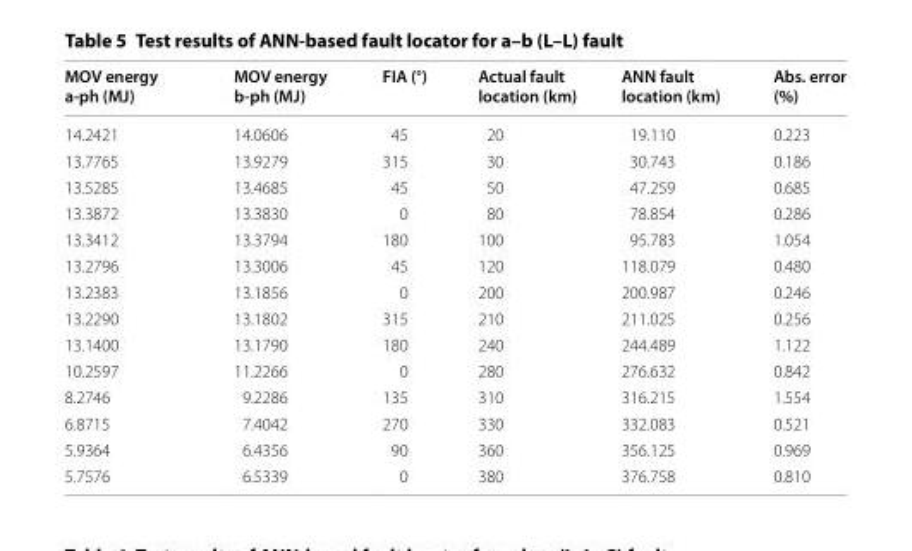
<table><thead><tr><td>MOV energy a-ph (MJ)</td><td>MOV energy b-ph (MJ)</td><td>FIA (°)</td><td>Actual fault location (km)</td><td>ANN fault location (km)</td><td>Abs. error (%)</td></tr></thead><tbody><tr><td>14.2421</td><td>14.0606</td><td>45</td><td>20</td><td>19.110</td><td>0.223</td></tr><tr><td>13.7765</td><td>13.9279</td><td>315</td><td>30</td><td>30.743</td><td>0.186</td></tr><tr><td>13.5285</td><td>13.4685</td><td>45</td><td>50</td><td>47.259</td><td>0.685</td></tr><tr><td>13.3872</td><td>13.3830</td><td>0</td><td>80</td><td>78.854</td><td>0.286</td></tr><tr><td>13.3412</td><td>13.3794</td><td>180</td><td>100</td><td>95.783</td><td>1.054</td></tr><tr><td>13.2796</td><td>13.3006</td><td>45</td><td>120</td><td>118.079</td><td>0.480</td></tr><tr><td>13.2383</td><td>13.1856</td><td>0</td><td>200</td><td>200.987</td><td>0.246</td></tr><tr><td>13.2290</td><td>13.1802</td><td>315</td><td>210</td><td>211.025</td><td>0.256</td></tr><tr><td>13.1400</td><td>13.1790</td><td>180</td><td>240</td><td>244.489</td><td>1.122</td></tr><tr><td>10.2597</td><td>11.2266</td><td>0</td><td>280</td><td>276.632</td><td>0.842</td></tr><tr><td>8.2746</td><td>9.2286</td><td>135</td><td>310</td><td>316.215</td><td>1.554</td></tr><tr><td>6.8715</td><td>7.4042</td><td>270</td><td>330</td><td>332.083</td><td>0.521</td></tr><tr><td>5.9364</td><td>6.4356</td><td>90</td><td>360</td><td>356.125</td><td>0.969</td></tr><tr><td>5.7576</td><td>6.5339</td><td>0</td><td>380</td><td>376.758</td><td>0.810</td></tr></tbody></table>